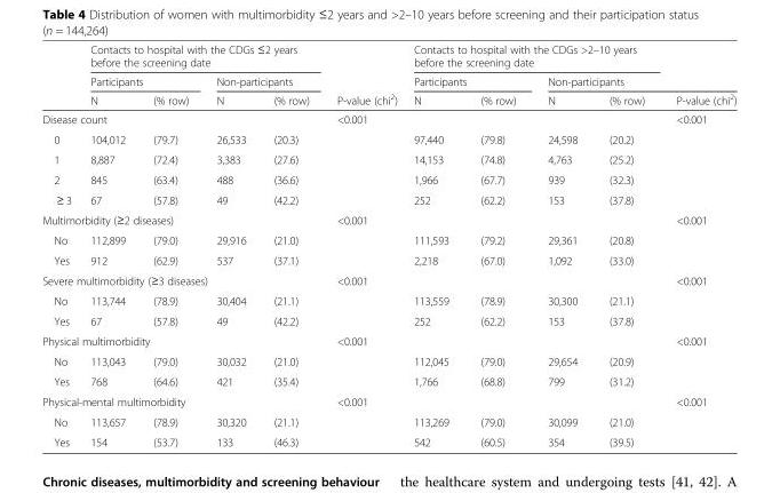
<table><thead><tr><td rowspan="3"></td><td colspan="4">Contacts to hospital with the CDGs ≤2 years before the screening date</td><td rowspan="3">P-value (chi<sup>2</sup>)</td><td colspan="4">Contacts to hospital with the CDGs &gt;2–10 years before the screening date</td><td></td></tr><tr><td colspan="2">Participants</td><td colspan="2">Non-participants</td><td colspan="2">Participants</td><td colspan="3">Non-participants</td></tr><tr><td>N</td><td>(% row)</td><td>N</td><td>(% row)</td><td>N</td><td>(% row)</td><td>N</td><td>(% row)</td><td>P-value (chi<sup>2</sup>)</td></tr></thead><tbody><tr><td colspan="2">Disease count</td><td></td><td></td><td></td><td>&lt;0.001</td><td colspan="2"></td><td></td><td></td><td>&lt;0.001</td></tr><tr><td>0</td><td>104,012</td><td>(79.7)</td><td>26,533</td><td>(20.3)</td><td></td><td>97,440</td><td>(79.8)</td><td>24,598</td><td>(20.2)</td><td></td></tr><tr><td>1</td><td>8,887</td><td>(72.4)</td><td>3,383</td><td>(27.6)</td><td></td><td>14,153</td><td>(74.8)</td><td>4,763</td><td>(25.2)</td><td></td></tr><tr><td>2</td><td>845</td><td>(63.4)</td><td>488</td><td>(36.6)</td><td></td><td>1,966</td><td>(67.7)</td><td>939</td><td>(32.3)</td><td></td></tr><tr><td>≥ 3</td><td>67</td><td>(57.8)</td><td>49</td><td>(42.2)</td><td></td><td>252</td><td>(62.2)</td><td>153</td><td>(37.8)</td><td></td></tr><tr><td colspan="4">Multimorbidity (≥2 diseases)</td><td></td><td>&lt;0.001</td><td colspan="3"></td><td></td><td>&lt;0.001</td></tr><tr><td>No</td><td>112,899</td><td>(79.0)</td><td>29,916</td><td>(21.0)</td><td></td><td>111,593</td><td>(79.2)</td><td>29,361</td><td>(20.8)</td><td></td></tr><tr><td>Yes</td><td>912</td><td>(62.9)</td><td>537</td><td>(37.1)</td><td></td><td>2,218</td><td>(67.0)</td><td>1,092</td><td>(33.0)</td><td></td></tr><tr><td colspan="4">Severe multimorbidity (≥3 diseases)</td><td></td><td>&lt;0.001</td><td colspan="3"></td><td></td><td>&lt;0.001</td></tr><tr><td>No</td><td>113,744</td><td>(78.9)</td><td>30,404</td><td>(21.1)</td><td></td><td>113,559</td><td>(78.9)</td><td>30,300</td><td>(21.1)</td><td></td></tr><tr><td>Yes</td><td>67</td><td>(57.8)</td><td>49</td><td>(42.2)</td><td></td><td>252</td><td>(62.2)</td><td>153</td><td>(37.8)</td><td></td></tr><tr><td colspan="4">Physical multimorbidity</td><td></td><td>&lt;0.001</td><td colspan="3"></td><td></td><td>&lt;0.001</td></tr><tr><td>No</td><td>113,043</td><td>(79.0)</td><td>30,032</td><td>(21.0)</td><td></td><td>112,045</td><td>(79.0)</td><td>29,654</td><td>(20.9)</td><td></td></tr><tr><td>Yes</td><td>768</td><td>(64.6)</td><td>421</td><td>(35.4)</td><td></td><td>1,766</td><td>(68.8)</td><td>799</td><td>(31.2)</td><td></td></tr><tr><td colspan="4">Physical-mental multimorbidity</td><td></td><td>&lt;0.001</td><td colspan="3"></td><td></td><td>&lt;0.001</td></tr><tr><td>No</td><td>113,657</td><td>(78.9)</td><td>30,320</td><td>(21.1)</td><td></td><td>113,269</td><td>(79.0)</td><td>30,099</td><td>(21.0)</td><td></td></tr><tr><td>Yes</td><td>154</td><td>(53.7)</td><td>133</td><td>(46.3)</td><td></td><td>542</td><td>(60.5)</td><td>354</td><td>(39.5)</td><td></td></tr></tbody></table>